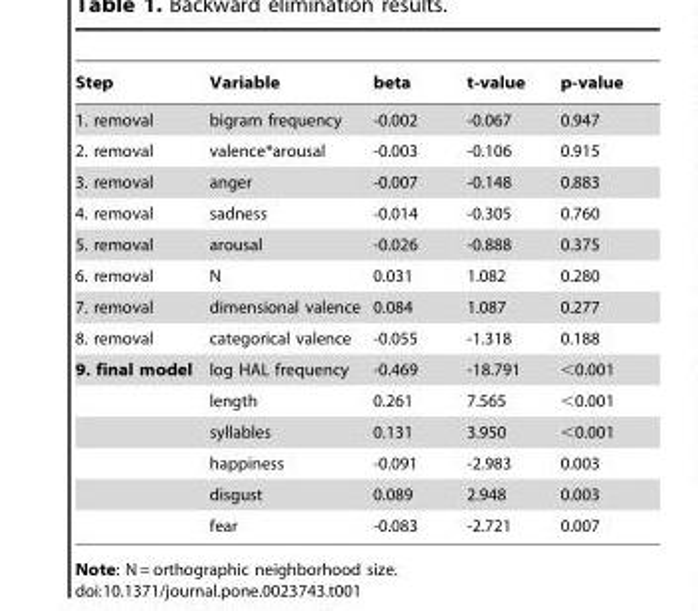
<table><thead><tr><td>Step</td><td>Variable</td><td>beta</td><td>t-value</td><td>p-value</td></tr></thead><tbody><tr><td>1. removal</td><td>bigram frequency</td><td>-0.002</td><td>-0.067</td><td>0.947</td></tr><tr><td>2. removal</td><td>valence*arousal</td><td>-0.003</td><td>-0.106</td><td>0.915</td></tr><tr><td>3. removal</td><td>anger</td><td>-0.007</td><td>-0.148</td><td>0.883</td></tr><tr><td>4. removal</td><td>sadness</td><td>-0.014</td><td>-0.305</td><td>0.760</td></tr><tr><td>5. removal</td><td>arousal</td><td>-0.026</td><td>-0.888</td><td>0.375</td></tr><tr><td>6. removal</td><td>N</td><td>0.031</td><td>1.082</td><td>0.280</td></tr><tr><td>7. removal</td><td>dimensional valence</td><td>0.084</td><td>1.087</td><td>0.277</td></tr><tr><td>8. removal</td><td>categorical valence</td><td>-0.055</td><td>-1.318</td><td>0.188</td></tr><tr><td rowspan="6">9. final model</td><td>log HAL frequency</td><td>-0.469</td><td>-18.791</td><td>&lt;0.001</td></tr><tr><td>length</td><td>0.261</td><td>7.565</td><td>&lt;0.001</td></tr><tr><td>syllables</td><td>0.131</td><td>3.950</td><td>&lt;0.001</td></tr><tr><td>happiness</td><td>-0.091</td><td>-2.983</td><td>0.003</td></tr><tr><td>disgust</td><td>0.089</td><td>2.948</td><td>0.003</td></tr><tr><td>fear</td><td>-0.083</td><td>-2.721</td><td>0.007</td></tr></tbody></table>